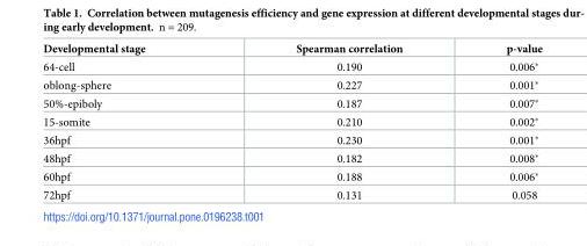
<table><thead><tr><td>Developmental stage</td><td>Spearman correlation</td><td>p-value</td></tr></thead><tbody><tr><td>64-cell</td><td>0.190</td><td>0.006*</td></tr><tr><td>oblong-sphere</td><td>0.227</td><td>0.001*</td></tr><tr><td>50%-epiboly</td><td>0.187</td><td>0.007*</td></tr><tr><td>15-somite</td><td>0.210</td><td>0.002*</td></tr><tr><td>36hpf</td><td>0.230</td><td>0.001*</td></tr><tr><td>48hpf</td><td>0.182</td><td>0.008*</td></tr><tr><td>60hpf</td><td>0.188</td><td>0.006*</td></tr><tr><td>72hpf</td><td>0.131</td><td>0.058</td></tr></tbody></table>